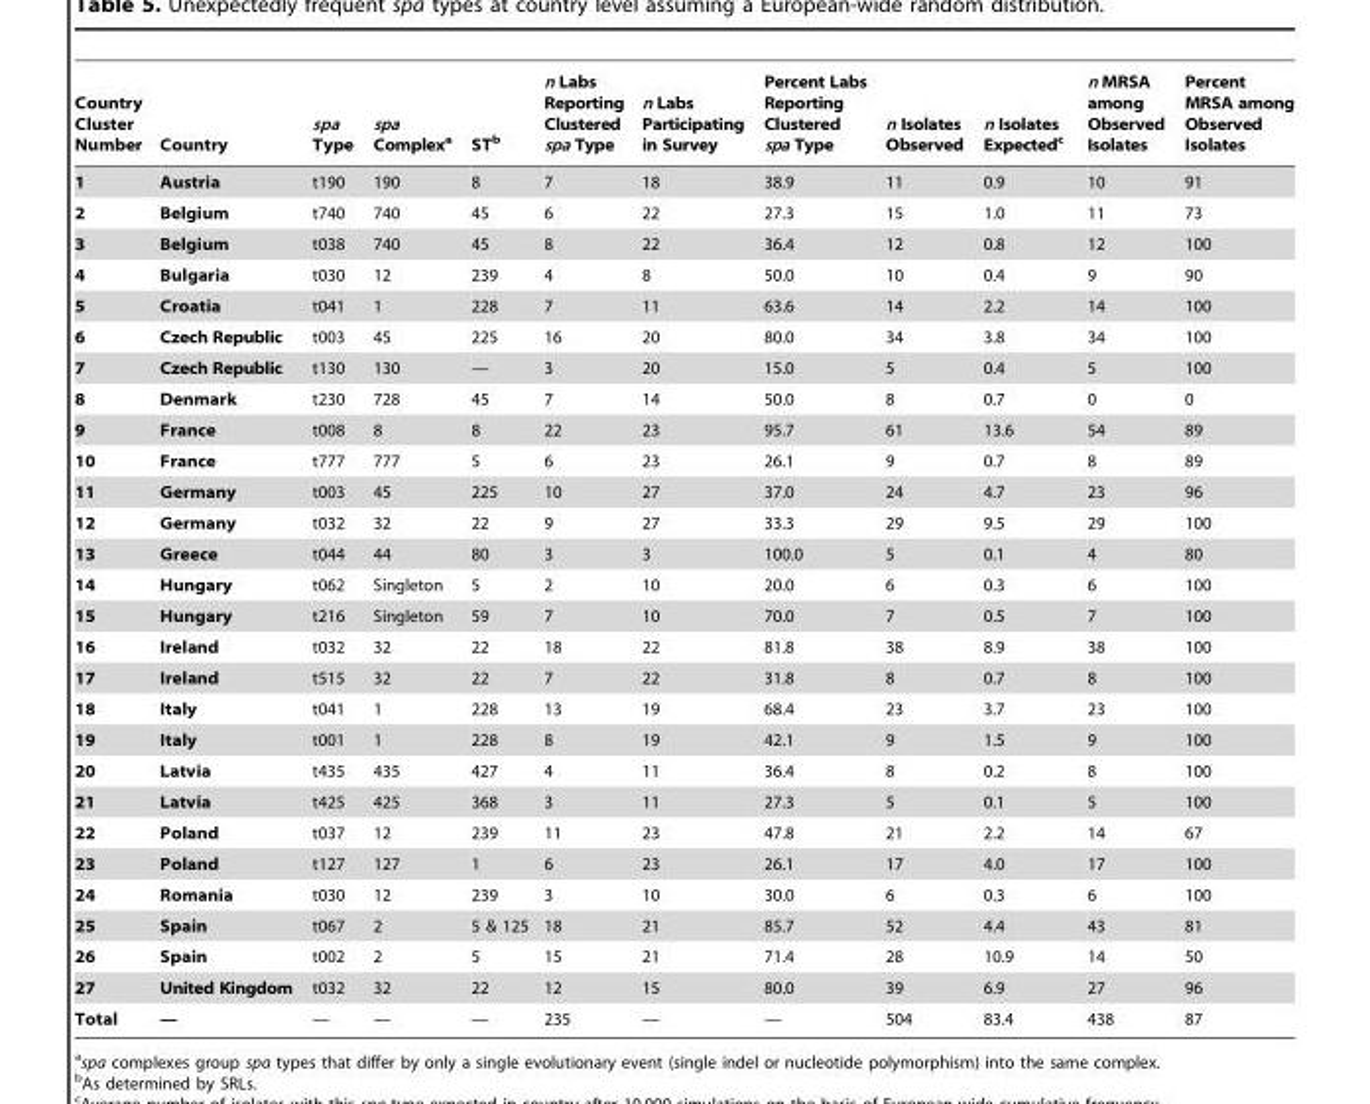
<table><thead><tr><td>Country Cluster Number</td><td>Country</td><td>spa Type</td><td>spa Complex<sup>a</sup></td><td>ST<sup>b</sup></td><td>n Labs Reporting Clustered spa Type</td><td>n Labs Participating in Survey</td><td>Percent Labs Reporting Clustered spa Type</td><td>n Isolates Observed</td><td>n Isolates Expected<sup>c</sup></td><td>n MRSA among Observed Isolates</td><td>Percent MRSA among Observed Isolates</td></tr></thead><tbody><tr><td>1</td><td>Austria</td><td>t190</td><td>190</td><td>8</td><td>7</td><td>18</td><td>38.9</td><td>11</td><td>0.9</td><td>10</td><td>91</td></tr><tr><td>2</td><td>Belgium</td><td>t740</td><td>740</td><td>45</td><td>6</td><td>22</td><td>27.3</td><td>15</td><td>1.0</td><td>11</td><td>73</td></tr><tr><td>3</td><td>Belgium</td><td>t038</td><td>740</td><td>45</td><td>8</td><td>22</td><td>36.4</td><td>12</td><td>0.8</td><td>12</td><td>100</td></tr><tr><td>4</td><td>Bulgaria</td><td>t030</td><td>12</td><td>239</td><td>4</td><td>8</td><td>50.0</td><td>10</td><td>0.4</td><td>9</td><td>90</td></tr><tr><td>5</td><td>Croatia</td><td>t041</td><td>1</td><td>228</td><td>7</td><td>11</td><td>63.6</td><td>14</td><td>2.2</td><td>14</td><td>100</td></tr><tr><td>6</td><td>Czech Republic</td><td>t003</td><td>45</td><td>225</td><td>16</td><td>20</td><td>80.0</td><td>34</td><td>3.8</td><td>34</td><td>100</td></tr><tr><td>7</td><td>Czech Republic</td><td>t130</td><td>130</td><td>—</td><td>3</td><td>20</td><td>15.0</td><td>5</td><td>0.4</td><td>5</td><td>100</td></tr><tr><td>8</td><td>Denmark</td><td>t230</td><td>728</td><td>45</td><td>7</td><td>14</td><td>50.0</td><td>8</td><td>0.7</td><td>0</td><td>0</td></tr><tr><td>9</td><td>France</td><td>t008</td><td>8</td><td>8</td><td>22</td><td>23</td><td>95.7</td><td>61</td><td>13.6</td><td>54</td><td>89</td></tr><tr><td>10</td><td>France</td><td>t777</td><td>777</td><td>5</td><td>6</td><td>23</td><td>26.1</td><td>9</td><td>0.7</td><td>8</td><td>89</td></tr><tr><td>11</td><td>Germany</td><td>t003</td><td>45</td><td>225</td><td>10</td><td>27</td><td>37.0</td><td>24</td><td>4.7</td><td>23</td><td>96</td></tr><tr><td>12</td><td>Germany</td><td>t032</td><td>32</td><td>22</td><td>9</td><td>27</td><td>33.3</td><td>29</td><td>9.5</td><td>29</td><td>100</td></tr><tr><td>13</td><td>Greece</td><td>t044</td><td>44</td><td>80</td><td>3</td><td>3</td><td>100.0</td><td>5</td><td>0.1</td><td>4</td><td>80</td></tr><tr><td>14</td><td>Hungary</td><td>t062</td><td>Singleton</td><td>5</td><td>2</td><td>10</td><td>20.0</td><td>6</td><td>0.3</td><td>6</td><td>100</td></tr><tr><td>15</td><td>Hungary</td><td>t216</td><td>Singleton</td><td>59</td><td>7</td><td>10</td><td>70.0</td><td>7</td><td>0.5</td><td>7</td><td>100</td></tr><tr><td>16</td><td>Ireland</td><td>t032</td><td>32</td><td>22</td><td>18</td><td>22</td><td>81.8</td><td>38</td><td>8.9</td><td>38</td><td>100</td></tr><tr><td>17</td><td>Ireland</td><td>t515</td><td>32</td><td>22</td><td>7</td><td>22</td><td>31.8</td><td>8</td><td>0.7</td><td>8</td><td>100</td></tr><tr><td>18</td><td>Italy</td><td>t041</td><td>1</td><td>228</td><td>13</td><td>19</td><td>68.4</td><td>23</td><td>3.7</td><td>23</td><td>100</td></tr><tr><td>19</td><td>Italy</td><td>t001</td><td>1</td><td>228</td><td>8</td><td>19</td><td>42.1</td><td>9</td><td>1.5</td><td>9</td><td>100</td></tr><tr><td>20</td><td>Latvia</td><td>t435</td><td>435</td><td>427</td><td>4</td><td>11</td><td>36.4</td><td>8</td><td>0.2</td><td>8</td><td>100</td></tr><tr><td>21</td><td>Latvia</td><td>t425</td><td>425</td><td>368</td><td>3</td><td>11</td><td>27.3</td><td>5</td><td>0.1</td><td>5</td><td>100</td></tr><tr><td>22</td><td>Poland</td><td>t037</td><td>12</td><td>239</td><td>11</td><td>23</td><td>47.8</td><td>21</td><td>2.2</td><td>14</td><td>67</td></tr><tr><td>23</td><td>Poland</td><td>t127</td><td>127</td><td>1</td><td>6</td><td>23</td><td>26.1</td><td>17</td><td>4.0</td><td>17</td><td>100</td></tr><tr><td>24</td><td>Romania</td><td>t030</td><td>12</td><td>239</td><td>3</td><td>10</td><td>30.0</td><td>6</td><td>0.3</td><td>6</td><td>100</td></tr><tr><td>25</td><td>Spain</td><td>t067</td><td>2</td><td>5 &amp; 125</td><td>18</td><td>21</td><td>85.7</td><td>52</td><td>4.4</td><td>43</td><td>81</td></tr><tr><td>26</td><td>Spain</td><td>t002</td><td>2</td><td>5</td><td>15</td><td>21</td><td>71.4</td><td>28</td><td>10.9</td><td>14</td><td>50</td></tr><tr><td>27</td><td>United Kingdom</td><td>t032</td><td>32</td><td>22</td><td>12</td><td>15</td><td>80.0</td><td>39</td><td>6.9</td><td>27</td><td>96</td></tr><tr><td>Total</td><td>—</td><td>—</td><td>—</td><td>—</td><td>235</td><td>—</td><td>—</td><td>504</td><td>83.4</td><td>438</td><td>87</td></tr></tbody></table>